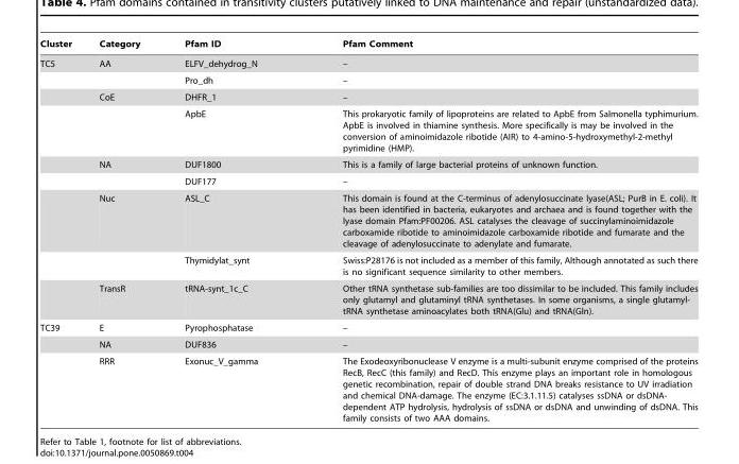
<table><thead><tr><td>Cluster</td><td>Category</td><td>Pfam ID</td><td>Pfam Comment</td></tr></thead><tbody><tr><td rowspan="9">TC5</td><td>AA</td><td>ELFV_dehydrog_N</td><td>–</td></tr><tr><td></td><td>Pro_dh</td><td>–</td></tr><tr><td>CoE</td><td>DHFR_1</td><td>–</td></tr><tr><td></td><td>ApbE</td><td>This prokaryotic family of lipoproteins are related to ApbE from Salmonella typhimurium. ApbE is involved in thiamine synthesis. More specifically is may be involved in the conversion of aminoimidazole ribotide (AIR) to 4-amino-5-hydroxymethyl-2-methyl pyrimidine (HMP).</td></tr><tr><td>NA</td><td>DUF1800</td><td>This is a family of large bacterial proteins of unknown function.</td></tr><tr><td></td><td>DUF177</td><td>–</td></tr><tr><td>Nuc</td><td>ASL_C</td><td>This domain is found at the C-terminus of adenylosuccinate lyase(ASL; PurB in E. coli). It has been identified in bacteria, eukaryotes and archaea and is found together with the lyase domain Pfam:PF00206. ASL catalyses the cleavage of succinylaminoimidazole carboxamide ribotide to aminoimidazole carboxamide ribotide and fumarate and the cleavage of adenylosuccinate to adenylate and fumarate.</td></tr><tr><td></td><td>Thymidylat_synt</td><td>Swiss:P28176 is not included as a member of this family, Although annotated as such there is no significant sequence similarity to other members.</td></tr><tr><td>TransR</td><td>tRNA-synt_1c_C</td><td>Other tRNA synthetase sub-families are too dissimilar to be included. This family includes only glutamyl and glutaminyl tRNA synthetases. In some organisms, a single glutamyl- tRNA synthetase aminoacylates both tRNA(Glu) and tRNA(Gln).</td></tr><tr><td rowspan="3">TC39</td><td>E</td><td>Pyrophosphatase</td><td>–</td></tr><tr><td>NA</td><td>DUF836</td><td>–</td></tr><tr><td>RRR</td><td>Exonuc_V_gamma</td><td>The Exodeoxyribonuclease V enzyme is a multi-subunit enzyme comprised of the proteins RecB, RecC (this family) and RecD. This enzyme plays an important role in homologous genetic recombination, repair of double strand DNA breaks resistance to UV irradiation and chemical DNA-damage. The enzyme (EC:3.1.11.5) catalyses ssDNA or dsDNA- dependent ATP hydrolysis, hydrolysis of ssDNA or dsDNA and unwinding of dsDNA. This family consists of two AAA domains.</td></tr></tbody></table>